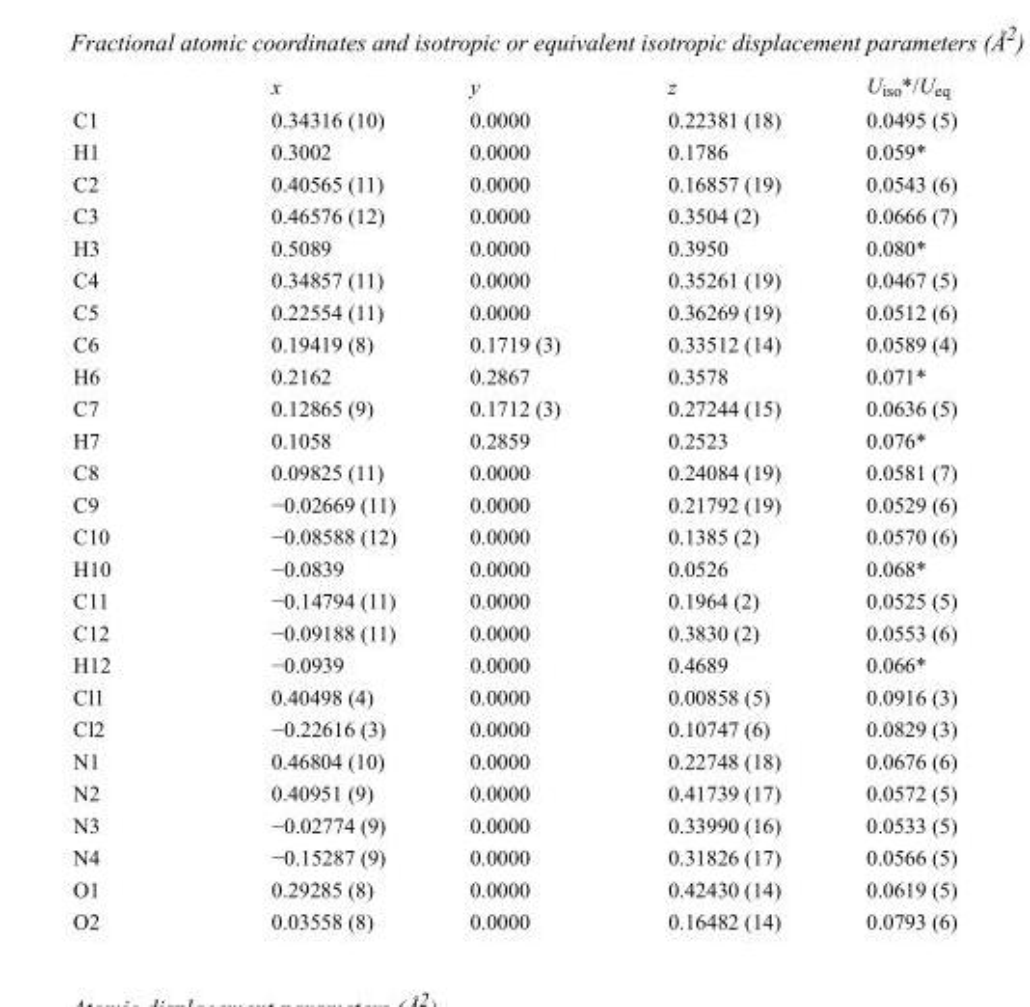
<table><thead><tr><td></td><td>x</td><td>y</td><td>z</td><td>U<sub>iso</sub>*/U<sub>eq</sub></td></tr></thead><tbody><tr><td>C1</td><td>0.34316 (10)</td><td>0.0000</td><td>0.22381 (18)</td><td>0.0495 (5)</td></tr><tr><td>H1</td><td>0.3002</td><td>0.0000</td><td>0.1786</td><td>0.059*</td></tr><tr><td>C2</td><td>0.40565 (11)</td><td>0.0000</td><td>0.16857 (19)</td><td>0.0543 (6)</td></tr><tr><td>C3</td><td>0.46576 (12)</td><td>0.0000</td><td>0.3504 (2)</td><td>0.0666 (7)</td></tr><tr><td>H3</td><td>0.5089</td><td>0.0000</td><td>0.3950</td><td>0.080*</td></tr><tr><td>C4</td><td>0.34857 (11)</td><td>0.0000</td><td>0.35261 (19)</td><td>0.0467 (5)</td></tr><tr><td>C5</td><td>0.22554 (11)</td><td>0.0000</td><td>0.36269 (19)</td><td>0.0512 (6)</td></tr><tr><td>C6</td><td>0.19419 (8)</td><td>0.1719 (3)</td><td>0.33512 (14)</td><td>0.0589 (4)</td></tr><tr><td>H6</td><td>0.2162</td><td>0.2867</td><td>0.3578</td><td>0.071*</td></tr><tr><td>C7</td><td>0.12865 (9)</td><td>0.1712 (3)</td><td>0.27244 (15)</td><td>0.0636 (5)</td></tr><tr><td>H7</td><td>0.1058</td><td>0.2859</td><td>0.2523</td><td>0.076*</td></tr><tr><td>C8</td><td>0.09825 (11)</td><td>0.0000</td><td>0.24084 (19)</td><td>0.0581 (7)</td></tr><tr><td>C9</td><td>−0.02669 (11)</td><td>0.0000</td><td>0.21792 (19)</td><td>0.0529 (6)</td></tr><tr><td>C10</td><td>−0.08588 (12)</td><td>0.0000</td><td>0.1385 (2)</td><td>0.0570 (6)</td></tr><tr><td>H10</td><td>−0.0839</td><td>0.0000</td><td>0.0526</td><td>0.068*</td></tr><tr><td>C11</td><td>−0.14794 (11)</td><td>0.0000</td><td>0.1964 (2)</td><td>0.0525 (5)</td></tr><tr><td>C12</td><td>−0.09188 (11)</td><td>0.0000</td><td>0.3830 (2)</td><td>0.0553 (6)</td></tr><tr><td>H12</td><td>−0.0939</td><td>0.0000</td><td>0.4689</td><td>0.066*</td></tr><tr><td>Cl1</td><td>0.40498 (4)</td><td>0.0000</td><td>0.00858 (5)</td><td>0.0916 (3)</td></tr><tr><td>Cl2</td><td>−0.22616 (3)</td><td>0.0000</td><td>0.10747 (6)</td><td>0.0829 (3)</td></tr><tr><td>N1</td><td>0.46804 (10)</td><td>0.0000</td><td>0.22748 (18)</td><td>0.0676 (6)</td></tr><tr><td>N2</td><td>0.40951 (9)</td><td>0.0000</td><td>0.41739 (17)</td><td>0.0572 (5)</td></tr><tr><td>N3</td><td>−0.02774 (9)</td><td>0.0000</td><td>0.33990 (16)</td><td>0.0533 (5)</td></tr><tr><td>N4</td><td>−0.15287 (9)</td><td>0.0000</td><td>0.31826 (17)</td><td>0.0566 (5)</td></tr><tr><td>O1</td><td>0.29285 (8)</td><td>0.0000</td><td>0.42430 (14)</td><td>0.0619 (5)</td></tr><tr><td>O2</td><td>0.03558 (8)</td><td>0.0000</td><td>0.16482 (14)</td><td>0.0793 (6)</td></tr></tbody></table>